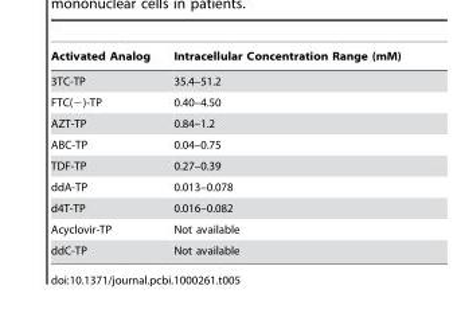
<table><thead><tr><td>Activated Analog</td><td>Intracellular Concentration Range (mM)</td></tr></thead><tbody><tr><td>3TC-TP</td><td>35.4–51.2</td></tr><tr><td>FTC(−)-TP</td><td>0.40–4.50</td></tr><tr><td>AZT-TP</td><td>0.84–1.2</td></tr><tr><td>ABC-TP</td><td>0.04–0.75</td></tr><tr><td>TDF-TP</td><td>0.27–0.39</td></tr><tr><td>ddA-TP</td><td>0.013–0.078</td></tr><tr><td>d4T-TP</td><td>0.016–0.082</td></tr><tr><td>Acyclovir-TP</td><td>Not available</td></tr><tr><td>ddC-TP</td><td>Not available</td></tr></tbody></table>